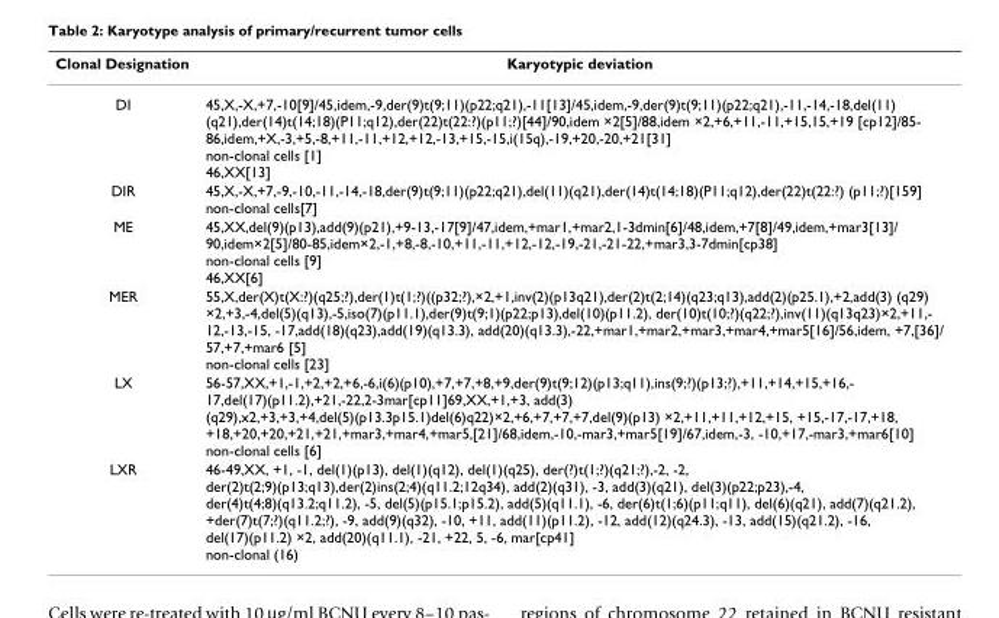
<table><thead><tr><td>Clonal Designation</td><td>Karyotypic deviation</td></tr></thead><tbody><tr><td>DI</td><td>45,X,-X,+7,-10[9]/45,idem,-9,der(9)t(9;11)(p22;q21),-11[13]/45,idem,-9,der(9)t(9;11)(p22;q21),-11,-14,-18,del(11) (q21),der(14)t(14;18)(P11;q12),der(22)t(22:?)(p11;?)[44]/90,idem ×2[5]/88,idem ×2,+6,+11,-11,+15,15,+19 [cp12]/85- 86,idem,+X,-3,+5,-8,+11,-11,+12,+12,-13,+15,-15,i(15q),-19,+20,-20,+21[31] non-clonal cells [1] 46,XX[13]</td></tr><tr><td>DIR</td><td>45,X,-X,+7,-9,-10,-11,-14,-18,der(9)t(9;11)(p22;q21),del(11)(q21),der(14)t(14;18)(P11;q12),der(22)t(22:?) (p11;?)[159] non-clonal cells[7]</td></tr><tr><td>ME</td><td>45,XX,del(9)(p13),add(9)(p21),+9-13,-17[9]/47,idem,+mar1,+mar2,1-3dmin[6]/48,idem,+7[8]/49,idem,+mar3[13]/ 90,idem×2[5]/80-85,idem×2,-1,+8,-8,-10,+11,-11,+12,-12,-19,-21,-21-22,+mar3,3-7dmin[cp38] non-clonal cells [9] 46,XX[6]</td></tr><tr><td>MER</td><td>55,X,der(X)t(X:?)(q25;?),der(1)t(1;?)((p32;?),×2,+1,inv(2)(p13q21),der(2)t(2;14)(q23;q13),add(2)(p25.1),+2,add(3) (q29) ×2,+3,-4,del(5)(q13),-5,iso(7)(p11.1),der(9)t(9;1)(p22;p13),del(10)(p11.2), der(10)t(10;?)(q22;?),inv(11)(q13q23)×2,+11,- 12,-13,-15, -17,add(18)(q23),add(19)(q13.3), add(20)(q13.3),-22,+mar1,+mar2,+mar3,+mar4,+mar5[16]/56,idem, +7,[36]/ 57,+7,+mar6 [5] non-clonal cells [23]</td></tr><tr><td>LX</td><td>56-57,XX,+1,-1,+2,+2,+6,-6,i(6)(p10),+7,+7,+8,+9,der(9)t(9;12)(p13;q11),ins(9;?)(p13;?),+11,+14,+15,+16,- 17,del(17)(p11.2),+21,-22,2-3mar[cp11]69,XX,+1,+3, add(3) (q29),x2,+3,+3,+4,del(5)(p13.3p15.1)del(6)q22)×2,+6,+7,+7,+7,del(9)(p13) ×2,+11,+11,+12,+15, +15,-17,-17,+18, +18,+20,+20,+21,+21,+mar3,+mar4,+mar5,[21]/68,idem,-10,-mar3,+mar5[19]/67,idem,-3, -10,+17,-mar3,+mar6[10] non-clonal cells [6]</td></tr><tr><td>LXR</td><td>46-49,XX, +1, -1, del(1)(p13), del(1)(q12), del(1)(q25), der(?)t(1;?)(q21;?),-2, -2, der(2)t(2;9)(p13;q13),der(2)ins(2;4)(q11.2;12q34), add(2)(q31), -3, add(3)(q21), del(3)(p22;p23),-4, der(4)t(4;8)(q13.2;q11.2), -5, del(5)(p15.1;p15.2), add(5)(q11.1), -6, der(6)t(1;6)(p11;q11), del(6)(q21), add(7)(q21.2), +der(7)t(7;?)(q11.2;?), -9, add(9)(q32), -10, +11, add(11)(p11.2), -12, add(12)(q24.3), -13, add(15)(q21.2), -16, del(17)(p11.2) ×2, add(20)(q11.1), -21, +22, 5, -6, mar[cp41] non-clonal (16)</td></tr></tbody></table>